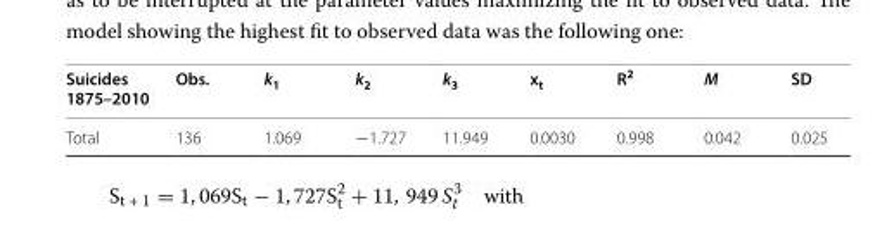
<table><thead><tr><td>Suicides 1875–2010</td><td>Obs.</td><td>k<sub>1</sub></td><td>k<sub>2</sub></td><td>k<sub>3</sub></td><td>x<sub>t</sub></td><td>R<sup>2</sup></td><td>M</td><td>SD</td></tr></thead><tbody><tr><td>Total</td><td>136</td><td>1.069</td><td>−1.727</td><td>11.949</td><td>0.0030</td><td>0.998</td><td>0.042</td><td>0.025</td></tr></tbody></table>